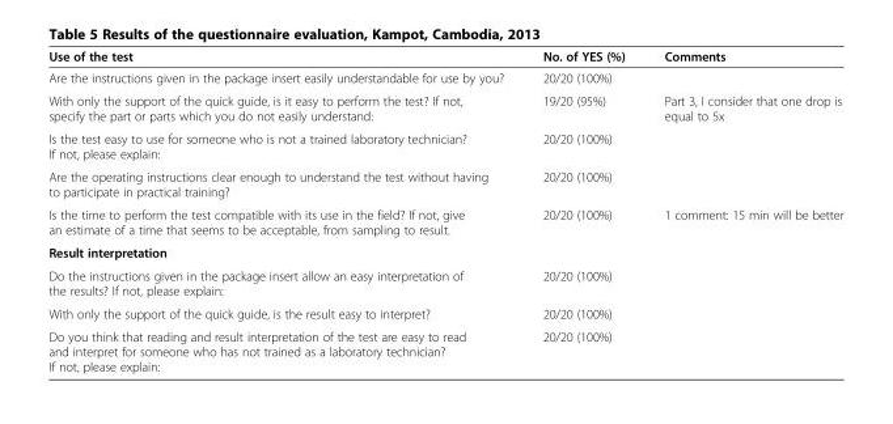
<table><thead><tr><td>Use of the test</td><td>No. of YES (%)</td><td>Comments</td></tr></thead><tbody><tr><td>Are the instructions given in the package insert easily understandable for use by you?</td><td>20/20 (100%)</td><td></td></tr><tr><td>With only the support of the quick guide, is it easy to perform the test? If not, specify the part or parts which you do not easily understand:</td><td>19/20 (95%)</td><td>Part 3, I consider that one drop is equal to 5x</td></tr><tr><td>Is the test easy to use for someone who is not a trained laboratory technician? If not, please explain:</td><td>20/20 (100%)</td><td></td></tr><tr><td>Are the operating instructions clear enough to understand the test without having to participate in practical training?</td><td>20/20 (100%)</td><td></td></tr><tr><td>Is the time to perform the test compatible with its use in the field? If not, give an estimate of a time that seems to be acceptable, from sampling to result.</td><td>20/20 (100%)</td><td>1 comment: 15 min will be better</td></tr><tr><td colspan="3">Result interpretation</td></tr><tr><td>Do the instructions given in the package insert allow an easy interpretation of the results? If not, please explain:</td><td>20/20 (100%)</td><td></td></tr><tr><td>With only the support of the quick guide, is the result easy to interpret?</td><td>20/20 (100%)</td><td></td></tr><tr><td>Do you think that reading and result interpretation of the test are easy to read and interpret for someone who has not trained as a laboratory technician? If not, please explain:</td><td>20/20 (100%)</td><td></td></tr></tbody></table>